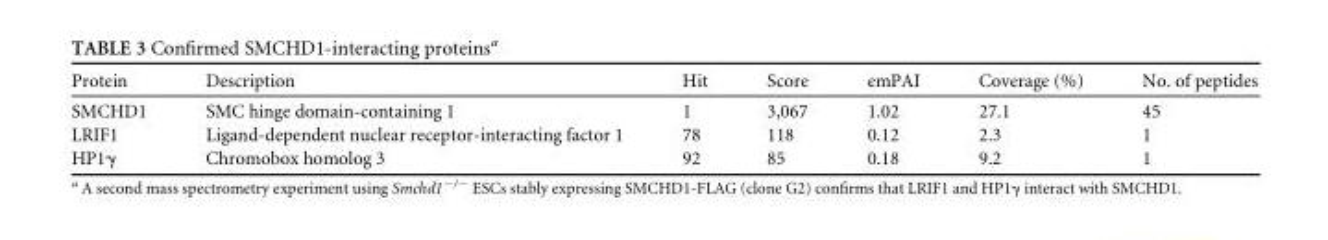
<table><thead><tr><td>Protein</td><td>Description</td><td>Hit</td><td>Score</td><td>emPAI</td><td>Coverage (%)</td><td>No. of peptides</td></tr></thead><tbody><tr><td>SMCHD1</td><td>SMC hinge domain-containing 1</td><td>1</td><td>3,067</td><td>1.02</td><td>27.1</td><td>45</td></tr><tr><td>LRIF1</td><td>Ligand-dependent nuclear receptor-interacting factor 1</td><td>78</td><td>118</td><td>0.12</td><td>2.3</td><td>1</td></tr><tr><td>HP1γ</td><td>Chromobox homolog 3</td><td>92</td><td>85</td><td>0.18</td><td>9.2</td><td>1</td></tr></tbody></table>